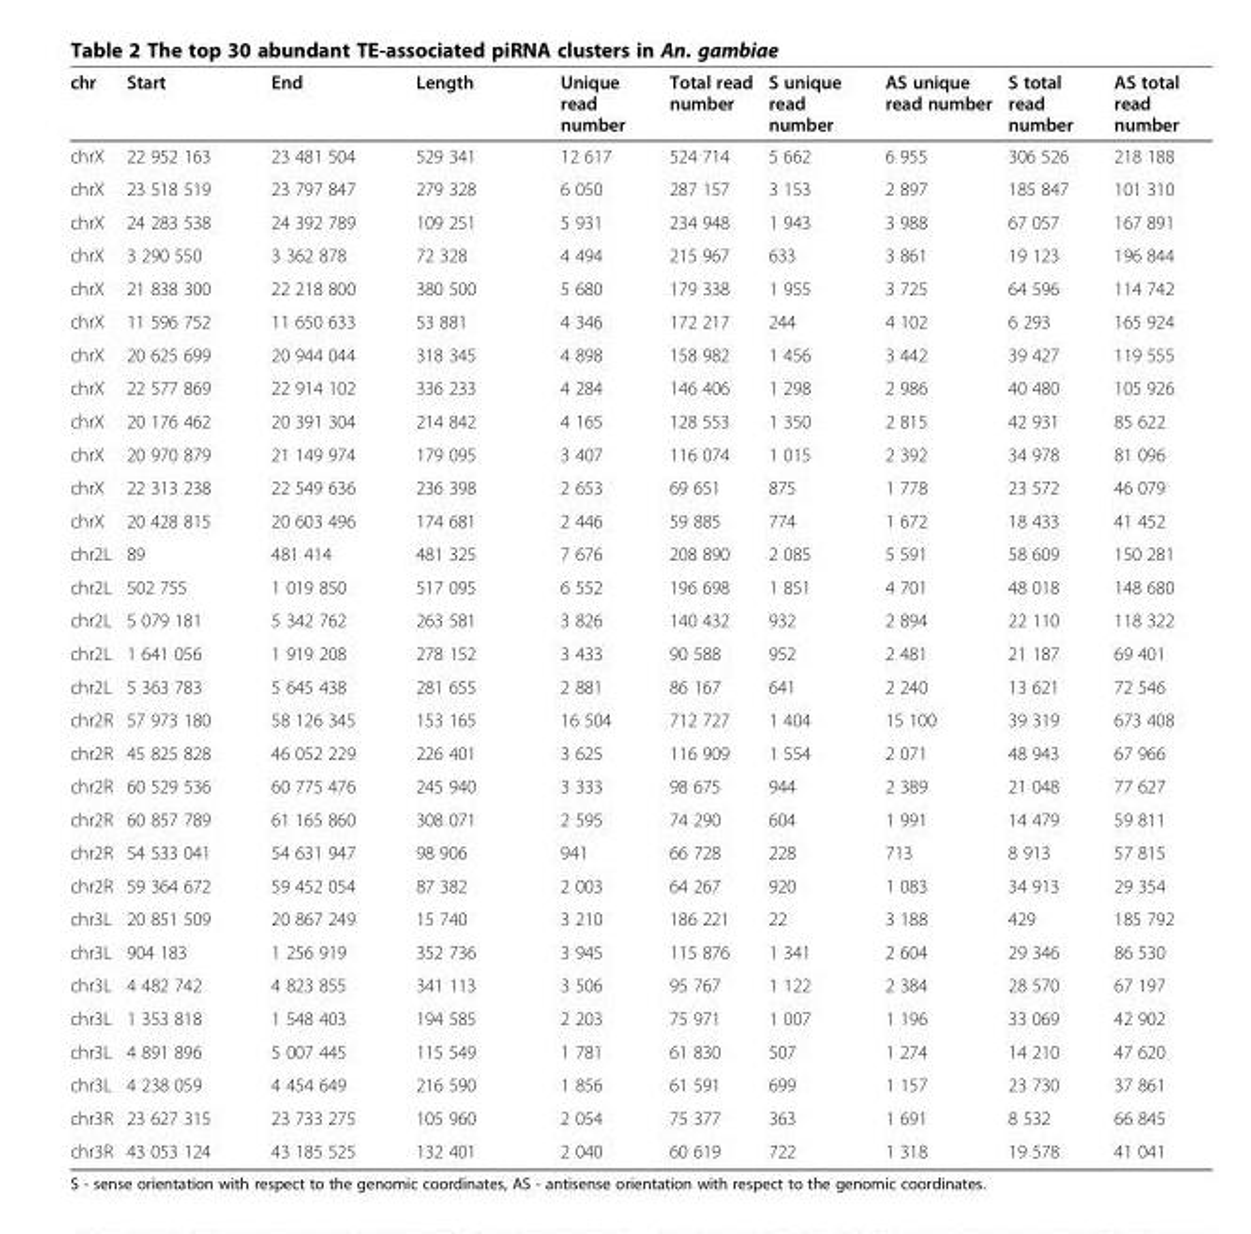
<table><thead><tr><td>chr</td><td>Start</td><td>End</td><td>Length</td><td>Unique read number</td><td>Total read number</td><td>S unique read number</td><td>AS unique read number</td><td>S total read number</td><td>AS total read number</td></tr></thead><tbody><tr><td>chrX</td><td>22 952 163</td><td>23 481 504</td><td>529 341</td><td>12 617</td><td>524 714</td><td>5 662</td><td>6 955</td><td>306 526</td><td>218 188</td></tr><tr><td>chrX</td><td>23 518 519</td><td>23 797 847</td><td>279 328</td><td>6 050</td><td>287 157</td><td>3 153</td><td>2 897</td><td>185 847</td><td>101 310</td></tr><tr><td>chrX</td><td>24 283 538</td><td>24 392 789</td><td>109 251</td><td>5 931</td><td>234 948</td><td>1 943</td><td>3 988</td><td>67 057</td><td>167 891</td></tr><tr><td>chrX</td><td>3 290 550</td><td>3 362 878</td><td>72 328</td><td>4 494</td><td>215 967</td><td>633</td><td>3 861</td><td>19 123</td><td>196 844</td></tr><tr><td>chrX</td><td>21 838 300</td><td>22 218 800</td><td>380 500</td><td>5 680</td><td>179 338</td><td>1 955</td><td>3 725</td><td>64 596</td><td>114 742</td></tr><tr><td>chrX</td><td>11 596 752</td><td>11 650 633</td><td>53 881</td><td>4 346</td><td>172 217</td><td>244</td><td>4 102</td><td>6 293</td><td>165 924</td></tr><tr><td>chrX</td><td>20 625 699</td><td>20 944 044</td><td>318 345</td><td>4 898</td><td>158 982</td><td>1 456</td><td>3 442</td><td>39 427</td><td>119 555</td></tr><tr><td>chrX</td><td>22 577 869</td><td>22 914 102</td><td>336 233</td><td>4 284</td><td>146 406</td><td>1 298</td><td>2 986</td><td>40 480</td><td>105 926</td></tr><tr><td>chrX</td><td>20 176 462</td><td>20 391 304</td><td>214 842</td><td>4 165</td><td>128 553</td><td>1 350</td><td>2 815</td><td>42 931</td><td>85 622</td></tr><tr><td>chrX</td><td>20 970 879</td><td>21 149 974</td><td>179 095</td><td>3 407</td><td>116 074</td><td>1 015</td><td>2 392</td><td>34 978</td><td>81 096</td></tr><tr><td>chrX</td><td>22 313 238</td><td>22 549 636</td><td>236 398</td><td>2 653</td><td>69 651</td><td>875</td><td>1 778</td><td>23 572</td><td>46 079</td></tr><tr><td>chrX</td><td>20 428 815</td><td>20 603 496</td><td>174 681</td><td>2 446</td><td>59 885</td><td>774</td><td>1 672</td><td>18 433</td><td>41 452</td></tr><tr><td>chr2L</td><td>89</td><td>481 414</td><td>481 325</td><td>7 676</td><td>208 890</td><td>2 085</td><td>5 591</td><td>58 609</td><td>150 281</td></tr><tr><td>chr2L</td><td>502 755</td><td>1 019 850</td><td>517 095</td><td>6 552</td><td>196 698</td><td>1 851</td><td>4 701</td><td>48 018</td><td>148 680</td></tr><tr><td>chr2L</td><td>5 079 181</td><td>5 342 762</td><td>263 581</td><td>3 826</td><td>140 432</td><td>932</td><td>2 894</td><td>22 110</td><td>118 322</td></tr><tr><td>chr2L</td><td>1 641 056</td><td>1 919 208</td><td>278 152</td><td>3 433</td><td>90 588</td><td>952</td><td>2 481</td><td>21 187</td><td>69 401</td></tr><tr><td>chr2L</td><td>5 363 783</td><td>5 645 438</td><td>281 655</td><td>2 881</td><td>86 167</td><td>641</td><td>2 240</td><td>13 621</td><td>72 546</td></tr><tr><td>chr2R</td><td>57 973 180</td><td>58 126 345</td><td>153 165</td><td>16 504</td><td>712 727</td><td>1 404</td><td>15 100</td><td>39 319</td><td>673 408</td></tr><tr><td>chr2R</td><td>45 825 828</td><td>46 052 229</td><td>226 401</td><td>3 625</td><td>116 909</td><td>1 554</td><td>2 071</td><td>48 943</td><td>67 966</td></tr><tr><td>chr2R</td><td>60 529 536</td><td>60 775 476</td><td>245 940</td><td>3 333</td><td>98 675</td><td>944</td><td>2 389</td><td>21 048</td><td>77 627</td></tr><tr><td>chr2R</td><td>60 857 789</td><td>61 165 860</td><td>308 071</td><td>2 595</td><td>74 290</td><td>604</td><td>1 991</td><td>14 479</td><td>59 811</td></tr><tr><td>chr2R</td><td>54 533 041</td><td>54 631 947</td><td>98 906</td><td>941</td><td>66 728</td><td>228</td><td>713</td><td>8 913</td><td>57 815</td></tr><tr><td>chr2R</td><td>59 364 672</td><td>59 452 054</td><td>87 382</td><td>2 003</td><td>64 267</td><td>920</td><td>1 083</td><td>34 913</td><td>29 354</td></tr><tr><td>chr3L</td><td>20 851 509</td><td>20 867 249</td><td>15 740</td><td>3 210</td><td>186 221</td><td>22</td><td>3 188</td><td>429</td><td>185 792</td></tr><tr><td>chr3L</td><td>904 183</td><td>1 256 919</td><td>352 736</td><td>3 945</td><td>115 876</td><td>1 341</td><td>2 604</td><td>29 346</td><td>86 530</td></tr><tr><td>chr3L</td><td>4 482 742</td><td>4 823 855</td><td>341 113</td><td>3 506</td><td>95 767</td><td>1 122</td><td>2 384</td><td>28 570</td><td>67 197</td></tr><tr><td>chr3L</td><td>1 353 818</td><td>1 548 403</td><td>194 585</td><td>2 203</td><td>75 971</td><td>1 007</td><td>1 196</td><td>33 069</td><td>42 902</td></tr><tr><td>chr3L</td><td>4 891 896</td><td>5 007 445</td><td>115 549</td><td>1 781</td><td>61 830</td><td>507</td><td>1 274</td><td>14 210</td><td>47 620</td></tr><tr><td>chr3L</td><td>4 238 059</td><td>4 454 649</td><td>216 590</td><td>1 856</td><td>61 591</td><td>699</td><td>1 157</td><td>23 730</td><td>37 861</td></tr><tr><td>chr3R</td><td>23 627 315</td><td>23 733 275</td><td>105 960</td><td>2 054</td><td>75 377</td><td>363</td><td>1 691</td><td>8 532</td><td>66 845</td></tr><tr><td>chr3R</td><td>43 053 124</td><td>43 185 525</td><td>132 401</td><td>2 040</td><td>60 619</td><td>722</td><td>1 318</td><td>19 578</td><td>41 041</td></tr></tbody></table>